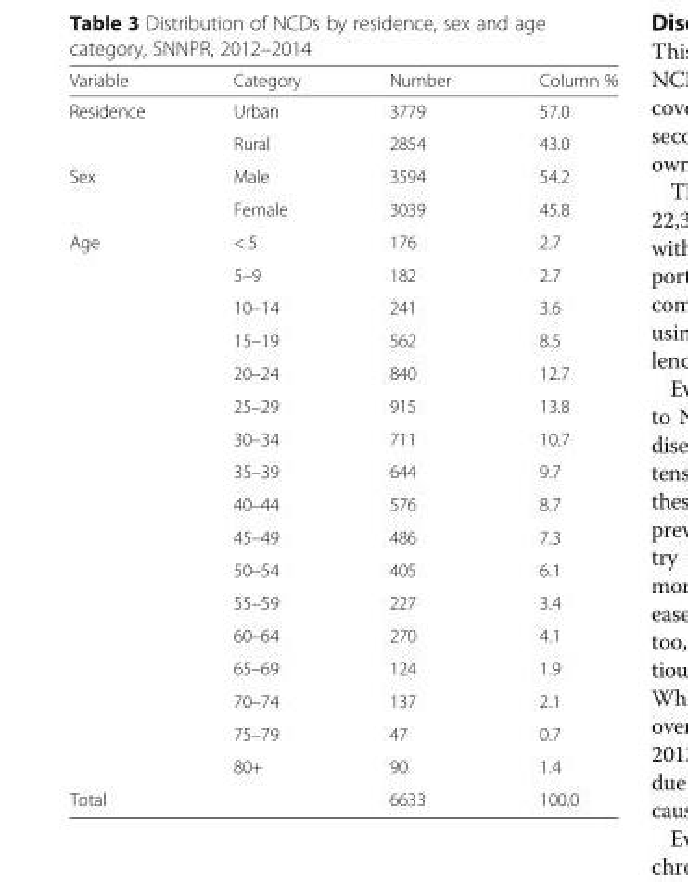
<table><thead><tr><td>Variable</td><td>Category</td><td>Number</td><td>Column %</td></tr></thead><tbody><tr><td rowspan="2">Residence</td><td>Urban</td><td>3779</td><td>57.0</td></tr><tr><td>Rural</td><td>2854</td><td>43.0</td></tr><tr><td rowspan="2">Sex</td><td>Male</td><td>3594</td><td>54.2</td></tr><tr><td>Female</td><td>3039</td><td>45.8</td></tr><tr><td rowspan="17">Age</td><td>&lt; 5</td><td>176</td><td>2.7</td></tr><tr><td>5–9</td><td>182</td><td>2.7</td></tr><tr><td>10–14</td><td>241</td><td>3.6</td></tr><tr><td>15–19</td><td>562</td><td>8.5</td></tr><tr><td>20–24</td><td>840</td><td>12.7</td></tr><tr><td>25–29</td><td>915</td><td>13.8</td></tr><tr><td>30–34</td><td>711</td><td>10.7</td></tr><tr><td>35–39</td><td>644</td><td>9.7</td></tr><tr><td>40–44</td><td>576</td><td>8.7</td></tr><tr><td>45–49</td><td>486</td><td>7.3</td></tr><tr><td>50–54</td><td>405</td><td>6.1</td></tr><tr><td>55–59</td><td>227</td><td>3.4</td></tr><tr><td>60–64</td><td>270</td><td>4.1</td></tr><tr><td>65–69</td><td>124</td><td>1.9</td></tr><tr><td>70–74</td><td>137</td><td>2.1</td></tr><tr><td>75–79</td><td>47</td><td>0.7</td></tr><tr><td>80+</td><td>90</td><td>1.4</td></tr><tr><td>Total</td><td></td><td>6633</td><td>100.0</td></tr></tbody></table>